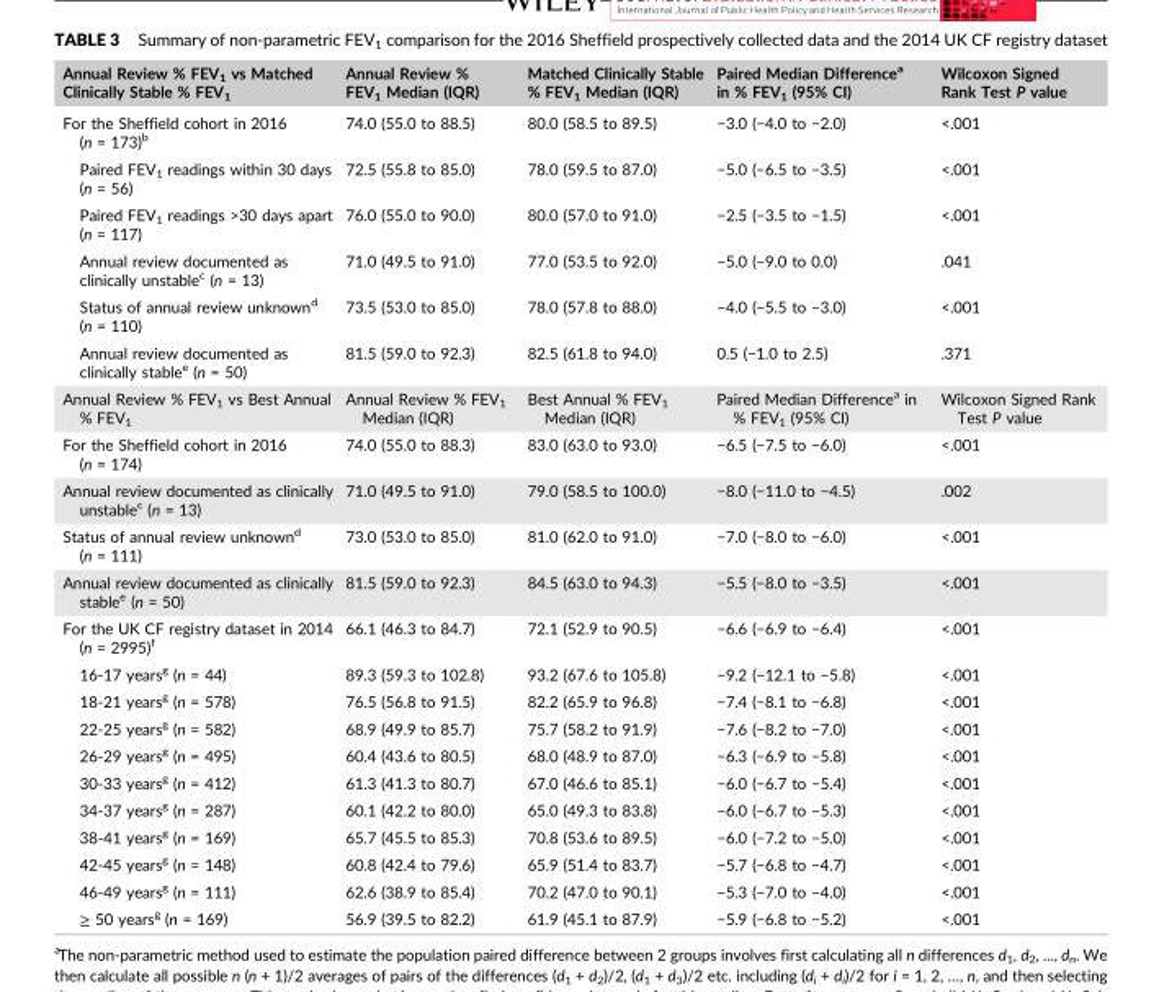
<table><thead><tr><td>Annual Review % FEV<sub>1</sub> vs Matched Clinically Stable % FEV<sub>1</sub></td><td>Annual Review % FEV<sub>1</sub> Median (IQR)</td><td>Matched Clinically Stable % FEV<sub>1</sub> Median (IQR)</td><td>Paired Median Difference<sup>a</sup> in % FEV<sub>1</sub> (95% CI)</td><td>Wilcoxon Signed Rank Test P value</td></tr></thead><tbody><tr><td>For the Sheffield cohort in 2016 (n = 173)<sup>b</sup></td><td>74.0 (55.0 to 88.5)</td><td>80.0 (58.5 to 89.5)</td><td>−3.0 (−4.0 to −2.0)</td><td>&lt;.001</td></tr><tr><td>Paired FEV<sub>1</sub> readings within 30 days (n = 56)</td><td>72.5 (55.8 to 85.0)</td><td>78.0 (59.5 to 87.0)</td><td>−5.0 (−6.5 to −3.5)</td><td>&lt;.001</td></tr><tr><td>Paired FEV<sub>1</sub> readings &gt;30 days apart (n = 117)</td><td>76.0 (55.0 to 90.0)</td><td>80.0 (57.0 to 91.0)</td><td>−2.5 (−3.5 to −1.5)</td><td>&lt;.001</td></tr><tr><td>Annual review documented as clinically unstable<sup>c</sup> (n = 13)</td><td>71.0 (49.5 to 91.0)</td><td>77.0 (53.5 to 92.0)</td><td>−5.0 (−9.0 to 0.0)</td><td>.041</td></tr><tr><td>Status of annual review unknown<sup>d</sup> (n = 110)</td><td>73.5 (53.0 to 85.0)</td><td>78.0 (57.8 to 88.0)</td><td>−4.0 (−5.5 to −3.0)</td><td>&lt;.001</td></tr><tr><td>Annual review documented as clinically stable<sup>e</sup> (n = 50)</td><td>81.5 (59.0 to 92.3)</td><td>82.5 (61.8 to 94.0)</td><td>0.5 (−1.0 to 2.5)</td><td>.371</td></tr><tr><td>Annual Review % FEV<sub>1</sub> vs Best Annual % FEV<sub>1</sub></td><td>Annual Review % FEV<sub>1</sub> Median (IQR)</td><td>Best Annual % FEV<sub>1</sub> Median (IQR)</td><td>Paired Median Difference<sup>a</sup> in % FEV<sub>1</sub> (95% CI)</td><td>Wilcoxon Signed Rank Test P value</td></tr><tr><td>For the Sheffield cohort in 2016 (n = 174)</td><td>74.0 (55.0 to 88.3)</td><td>83.0 (63.0 to 93.0)</td><td>−6.5 (−7.5 to −6.0)</td><td>&lt;.001</td></tr><tr><td>Annual review documented as clinically unstable<sup>c</sup> (n = 13)</td><td>71.0 (49.5 to 91.0)</td><td>79.0 (58.5 to 100.0)</td><td>−8.0 (−11.0 to −4.5)</td><td>.002</td></tr><tr><td>Status of annual review unknown<sup>d</sup> (n = 111)</td><td>73.0 (53.0 to 85.0)</td><td>81.0 (62.0 to 91.0)</td><td>−7.0 (−8.0 to −6.0)</td><td>&lt;.001</td></tr><tr><td>Annual review documented as clinically stable<sup>e</sup> (n = 50)</td><td>81.5 (59.0 to 92.3)</td><td>84.5 (63.0 to 94.3)</td><td>−5.5 (−8.0 to −3.5)</td><td>&lt;.001</td></tr><tr><td>For the UK CF registry dataset in 2014 (n = 2995)<sup>f</sup></td><td>66.1 (46.3 to 84.7)</td><td>72.1 (52.9 to 90.5)</td><td>−6.6 (−6.9 to −6.4)</td><td>&lt;.001</td></tr><tr><td>16‐17 years<sup>g</sup> (n = 44)</td><td>89.3 (59.3 to 102.8)</td><td>93.2 (67.6 to 105.8)</td><td>−9.2 (−12.1 to −5.8)</td><td>&lt;.001</td></tr><tr><td>18‐21 years<sup>g</sup> (n = 578)</td><td>76.5 (56.8 to 91.5)</td><td>82.2 (65.9 to 96.8)</td><td>−7.4 (−8.1 to −6.8)</td><td>&lt;.001</td></tr><tr><td>22‐25 years<sup>g</sup> (n = 582)</td><td>68.9 (49.9 to 85.7)</td><td>75.7 (58.2 to 91.9)</td><td>−7.6 (−8.2 to −7.0)</td><td>&lt;.001</td></tr><tr><td>26‐29 years<sup>g</sup> (n = 495)</td><td>60.4 (43.6 to 80.5)</td><td>68.0 (48.9 to 87.0)</td><td>−6.3 (−6.9 to −5.8)</td><td>&lt;.001</td></tr><tr><td>30‐33 years<sup>g</sup> (n = 412)</td><td>61.3 (41.3 to 80.7)</td><td>67.0 (46.6 to 85.1)</td><td>−6.0 (−6.7 to −5.4)</td><td>&lt;.001</td></tr><tr><td>34‐37 years<sup>g</sup> (n = 287)</td><td>60.1 (42.2 to 80.0)</td><td>65.0 (49.3 to 83.8)</td><td>−6.0 (−6.7 to −5.3)</td><td>&lt;.001</td></tr><tr><td>38‐41 years<sup>g</sup> (n = 169)</td><td>65.7 (45.5 to 85.3)</td><td>70.8 (53.6 to 89.5)</td><td>−6.0 (−7.2 to −5.0)</td><td>&lt;.001</td></tr><tr><td>42‐45 years<sup>g</sup> (n = 148)</td><td>60.8 (42.4 to 79.6)</td><td>65.9 (51.4 to 83.7)</td><td>−5.7 (−6.8 to −4.7)</td><td>&lt;.001</td></tr><tr><td>46‐49 years<sup>g</sup> (n = 111)</td><td>62.6 (38.9 to 85.4)</td><td>70.2 (47.0 to 90.1)</td><td>−5.3 (−7.0 to −4.0)</td><td>&lt;.001</td></tr><tr><td>≥ 50 years<sup>g</sup> (n = 169)</td><td>56.9 (39.5 to 82.2)</td><td>61.9 (45.1 to 87.9)</td><td>−5.9 (−6.8 to −5.2)</td><td>&lt;.001</td></tr></tbody></table>